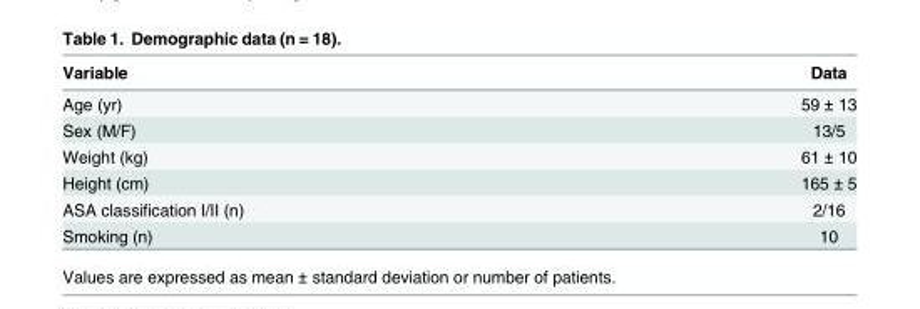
<table><thead><tr><td>Variable</td><td>Data</td></tr></thead><tbody><tr><td>Age (yr)</td><td>59 ± 13</td></tr><tr><td>Sex (M/F)</td><td>13/5</td></tr><tr><td>Weight (kg)</td><td>61 ± 10</td></tr><tr><td>Height (cm)</td><td>165 ± 5</td></tr><tr><td>ASA classification I/II (n)</td><td>2/16</td></tr><tr><td>Smoking (n)</td><td>10</td></tr></tbody></table>